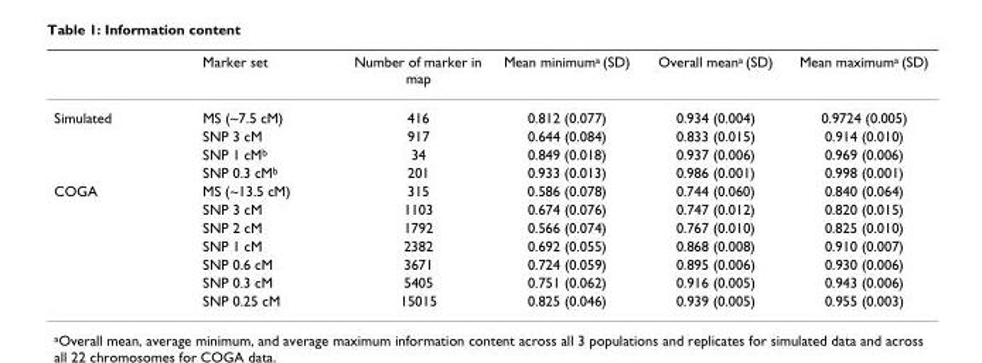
<table><thead><tr><td></td><td>Marker set</td><td>Number of marker in map</td><td>Mean minimuma (SD)</td><td>Overall meana (SD)</td><td>Mean maximuma (SD)</td></tr></thead><tbody><tr><td rowspan="4">Simulated</td><td>MS (~7.5 cM)</td><td>416</td><td>0.812 (0.077)</td><td>0.934 (0.004)</td><td>0.9724 (0.005)</td></tr><tr><td>SNP 3 cM</td><td>917</td><td>0.644 (0.084)</td><td>0.833 (0.015)</td><td>0.914 (0.010)</td></tr><tr><td>SNP 1 cMb</td><td>34</td><td>0.849 (0.018)</td><td>0.937 (0.006)</td><td>0.969 (0.006)</td></tr><tr><td>SNP 0.3 cMb</td><td>201</td><td>0.933 (0.013)</td><td>0.986 (0.001)</td><td>0.998 (0.001)</td></tr><tr><td rowspan="7">COGA</td><td>MS (~13.5 cM)</td><td>315</td><td>0.586 (0.078)</td><td>0.744 (0.060)</td><td>0.840 (0.064)</td></tr><tr><td>SNP 3 cM</td><td>1103</td><td>0.674 (0.076)</td><td>0.747 (0.012)</td><td>0.820 (0.015)</td></tr><tr><td>SNP 2 cM</td><td>1792</td><td>0.566 (0.074)</td><td>0.767 (0.010)</td><td>0.825 (0.010)</td></tr><tr><td>SNP 1 cM</td><td>2382</td><td>0.692 (0.055)</td><td>0.868 (0.008)</td><td>0.910 (0.007)</td></tr><tr><td>SNP 0.6 cM</td><td>3671</td><td>0.724 (0.059)</td><td>0.895 (0.006)</td><td>0.930 (0.006)</td></tr><tr><td>SNP 0.3 cM</td><td>5405</td><td>0.751 (0.062)</td><td>0.916 (0.005)</td><td>0.943 (0.006)</td></tr><tr><td>SNP 0.25 cM</td><td>15015</td><td>0.825 (0.046)</td><td>0.939 (0.005)</td><td>0.955 (0.003)</td></tr></tbody></table>